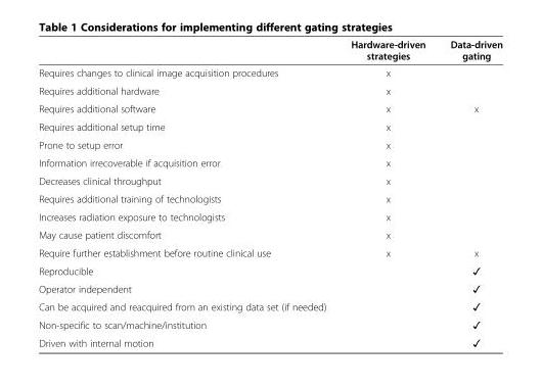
<table><thead><tr><td></td><td>Hardware-driven strategies</td><td>Data-driven gating</td></tr></thead><tbody><tr><td>Requires changes to clinical image acquisition procedures</td><td>x</td><td></td></tr><tr><td>Requires additional hardware</td><td>x</td><td></td></tr><tr><td>Requires additional software</td><td>x</td><td>x</td></tr><tr><td>Requires additional setup time</td><td>x</td><td></td></tr><tr><td>Prone to setup error</td><td>x</td><td></td></tr><tr><td>Information irrecoverable if acquisition error</td><td>x</td><td></td></tr><tr><td>Decreases clinical throughput</td><td>x</td><td></td></tr><tr><td>Requires additional training of technologists</td><td>x</td><td></td></tr><tr><td>Increases radiation exposure to technologists</td><td>x</td><td></td></tr><tr><td>May cause patient discomfort</td><td>x</td><td></td></tr><tr><td>Require further establishment before routine clinical use</td><td>x</td><td>x</td></tr><tr><td>Reproducible</td><td></td><td>✓</td></tr><tr><td>Operator independent</td><td></td><td>✓</td></tr><tr><td>Can be acquired and reacquired from an existing data set (if needed)</td><td></td><td>✓</td></tr><tr><td>Non-specific to scan/machine/institution</td><td></td><td>✓</td></tr><tr><td>Driven with internal motion</td><td></td><td>✓</td></tr></tbody></table>